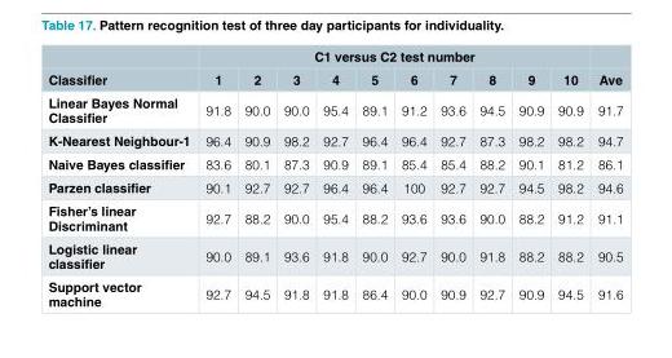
<table><thead><tr><td rowspan="2">Classifier</td><td colspan="10">C1 versus C2 test number</td><td rowspan="2">Ave</td></tr><tr><td>1</td><td>2</td><td>3</td><td>4</td><td>5</td><td>6</td><td>7</td><td>8</td><td>9</td><td>10</td></tr></thead><tbody><tr><td>Linear Bayes Normal Classifier</td><td>91.8</td><td>90.0</td><td>90.0</td><td>95.4</td><td>89.1</td><td>91.2</td><td>93.6</td><td>94.5</td><td>90.9</td><td>90.9</td><td>91.7</td></tr><tr><td>K-Nearest Neighbour-1</td><td>96.4</td><td>90.9</td><td>98.2</td><td>92.7</td><td>96.4</td><td>96.4</td><td>92.7</td><td>87.3</td><td>98.2</td><td>98.2</td><td>94.7</td></tr><tr><td>Naive Bayes classifier</td><td>83.6</td><td>80.1</td><td>87.3</td><td>90.9</td><td>89.1</td><td>85.4</td><td>85.4</td><td>88.2</td><td>90.1</td><td>81.2</td><td>86.1</td></tr><tr><td>Parzen classifier</td><td>90.1</td><td>92.7</td><td>92.7</td><td>96.4</td><td>96.4</td><td>100</td><td>92.7</td><td>92.7</td><td>94.5</td><td>98.2</td><td>94.6</td></tr><tr><td>Fisher’s linear Discriminant</td><td>92.7</td><td>88.2</td><td>90.0</td><td>95.4</td><td>88.2</td><td>93.6</td><td>93.6</td><td>90.0</td><td>88.2</td><td>91.2</td><td>91.1</td></tr><tr><td>Logistic linear classifier</td><td>90.0</td><td>89.1</td><td>93.6</td><td>91.8</td><td>90.0</td><td>92.7</td><td>90.0</td><td>91.8</td><td>88.2</td><td>88.2</td><td>90.5</td></tr><tr><td>Support vector machine</td><td>92.7</td><td>94.5</td><td>91.8</td><td>91.8</td><td>86.4</td><td>90.0</td><td>90.9</td><td>92.7</td><td>90.9</td><td>94.5</td><td>91.6</td></tr></tbody></table>